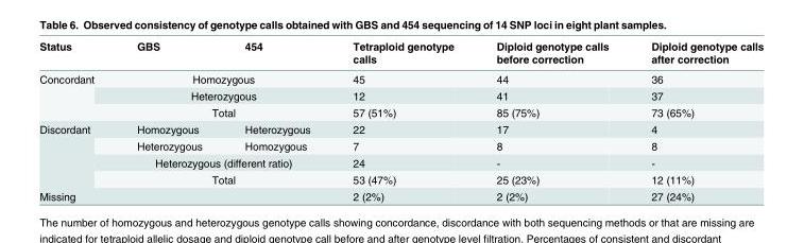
<table><thead><tr><td>Status</td><td>GBS</td><td>454</td><td>Tetraploid genotype calls</td><td>Diploid genotype calls before correction</td><td>Diploid genotype calls after correction</td></tr></thead><tbody><tr><td rowspan="3">Concordant</td><td colspan="2">Homozygous</td><td>45</td><td>44</td><td>36</td></tr><tr><td colspan="2">Heterozygous</td><td>12</td><td>41</td><td>37</td></tr><tr><td colspan="2">Total</td><td>57 (51%)</td><td>85 (75%)</td><td>73 (65%)</td></tr><tr><td rowspan="4">Discordant</td><td>Homozygous</td><td>Heterozygous</td><td>22</td><td>17</td><td>4</td></tr><tr><td>Heterozygous</td><td>Homozygous</td><td>7</td><td>8</td><td>8</td></tr><tr><td colspan="2">Heterozygous (different ratio)</td><td>24</td><td>-</td><td>-</td></tr><tr><td colspan="2">Total</td><td>53 (47%)</td><td>25 (23%)</td><td>12 (11%)</td></tr><tr><td>Missing</td><td colspan="2"></td><td>2 (2%)</td><td>2 (2%)</td><td>27 (24%)</td></tr></tbody></table>